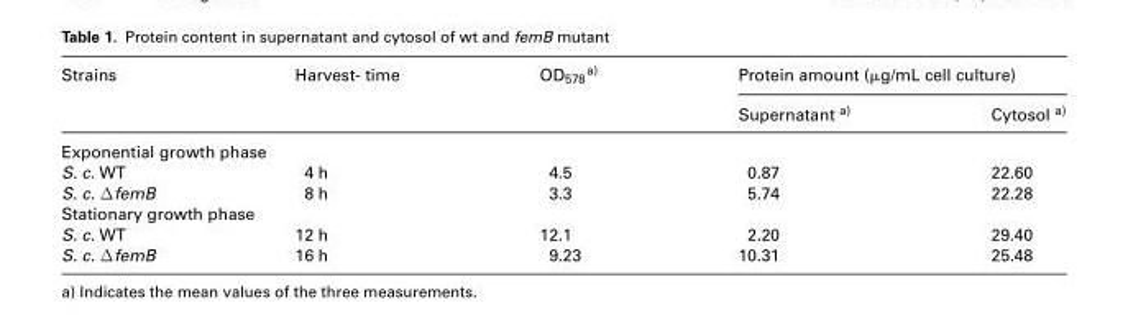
<table><thead><tr><td rowspan="2">Strains</td><td rowspan="2">Harvest- time</td><td rowspan="2">OD<sub>578</sub>a)</td><td colspan="2">Protein amount (μg/mL cell culture)</td></tr><tr><td>Supernatant a)</td><td>Cytosol a)</td></tr></thead><tbody><tr><td colspan="5">Exponential growth phase</td></tr><tr><td>S. c. WT</td><td>4 h</td><td>4.5</td><td>0.87</td><td>22.60</td></tr><tr><td>S. c. ΔfemB</td><td>8 h</td><td>3.3</td><td>5.74</td><td>22.28</td></tr><tr><td colspan="5">Stationary growth phase</td></tr><tr><td>S. c. WT</td><td>12 h</td><td>12.1</td><td>2.20</td><td>29.40</td></tr><tr><td>S. c. ΔfemB</td><td>16 h</td><td>9.23</td><td>10.31</td><td>25.48</td></tr></tbody></table>